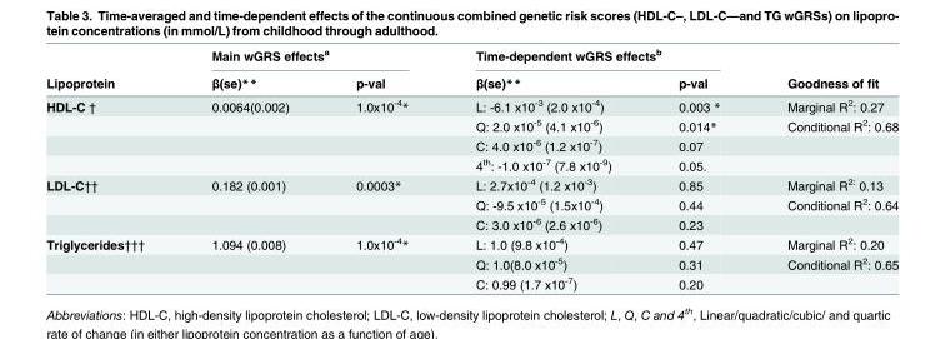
<table><thead><tr><td rowspan="2">Lipoprotein</td><td colspan="2">Main wGRS effects<sup>a</sup></td><td colspan="2">Time-dependent wGRS effects<sup>b</sup></td><td rowspan="2">Goodness of fit</td></tr><tr><td>β(se)**</td><td>p-val</td><td>β(se)**</td><td>p-val</td></tr></thead><tbody><tr><td rowspan="4">HDL-C †</td><td>0.0064(0.002)</td><td>1.0x10<sup>-4</sup>*</td><td>L: -6.1 x10<sup>-3</sup> (2.0 x10<sup>-4</sup>)</td><td>0.003 *</td><td>Marginal R<sup>2</sup>: 0.27</td></tr><tr><td></td><td></td><td>Q: 2.0 x10<sup>-5</sup> (4.1 x10<sup>-6</sup>)</td><td>0.014*</td><td>Conditional R<sup>2</sup>: 0.68</td></tr><tr><td></td><td></td><td>C: 4.0 x10<sup>-6</sup> (1.2 x10<sup>-7</sup>)</td><td>0.07</td><td></td></tr><tr><td></td><td></td><td>4<sup>th</sup>: -1.0 x10<sup>-7</sup> (7.8 x10<sup>-9</sup>)</td><td>0.05.</td><td></td></tr><tr><td rowspan="3">LDL-C††</td><td>0.182 (0.001)</td><td>0.0003*</td><td>L: 2.7x10<sup>-4</sup> (1.2 x10<sup>-3</sup>)</td><td>0.85</td><td>Marginal R<sup>2:</sup> 0.13</td></tr><tr><td></td><td></td><td>Q: -9.5 x10<sup>-5</sup> (1.5x10<sup>-4</sup>)</td><td>0.44</td><td>Conditional R<sup>2</sup>: 0.64</td></tr><tr><td></td><td></td><td>C: 3.0 x10<sup>-6</sup> (2.6 x10<sup>-6</sup>)</td><td>0.23</td><td></td></tr><tr><td rowspan="3">Triglycerides†††</td><td>1.094 (0.008)</td><td>1.0x10<sup>-4</sup>*</td><td>L: 1.0 (9.8 x10<sup>-4</sup>)</td><td>0.47</td><td>Marginal R<sup>2</sup>: 0.20</td></tr><tr><td></td><td></td><td>Q: 1.0(8.0 x10<sup>-5</sup>)</td><td>0.31</td><td>Conditional R<sup>2</sup>: 0.65</td></tr><tr><td></td><td></td><td>C: 0.99 (1.7 x10<sup>-7</sup>)</td><td>0.20</td><td></td></tr></tbody></table>